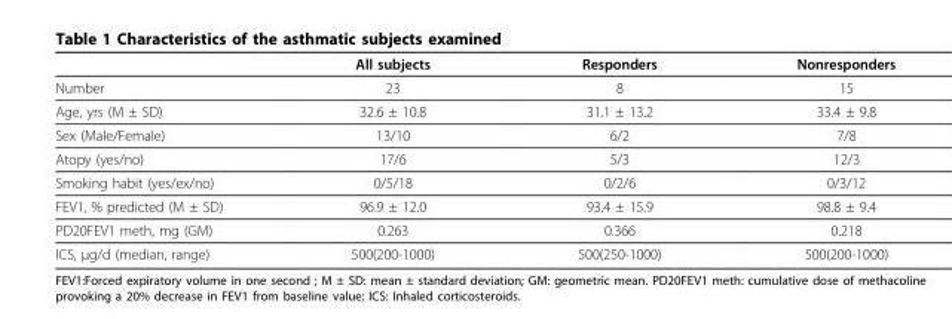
<table><thead><tr><td></td><td>All subjects</td><td>Responders</td><td>Nonresponders</td></tr></thead><tbody><tr><td>Number</td><td>23</td><td>8</td><td>15</td></tr><tr><td>Age, yrs (M ± SD)</td><td>32.6 ± 10.8</td><td>31.1 ± 13.2</td><td>33.4 ± 9.8</td></tr><tr><td>Sex (Male/Female)</td><td>13/10</td><td>6/2</td><td>7/8</td></tr><tr><td>Atopy (yes/no)</td><td>17/6</td><td>5/3</td><td>12/3</td></tr><tr><td>Smoking habit (yes/ex/no)</td><td>0/5/18</td><td>0/2/6</td><td>0/3/12</td></tr><tr><td>FEV1, % predicted (M ± SD)</td><td>96.9 ± 12.0</td><td>93.4 ± 15.9</td><td>98.8 ± 9.4</td></tr><tr><td>PD20FEV1 meth, mg (GM)</td><td>0.263</td><td>0.366</td><td>0.218</td></tr><tr><td>ICS, μg/d (median, range)</td><td>500(200-1000)</td><td>500(250-1000)</td><td>500(200-1000)</td></tr></tbody></table>